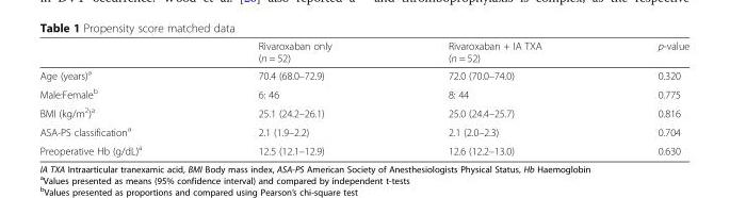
<table><thead><tr><td></td><td>Rivaroxaban only (n = 52)</td><td>Rivaroxaban + IA TXA (n = 52)</td><td>p-value</td></tr></thead><tbody><tr><td>Age (years)<sup>a</sup></td><td>70.4 (68.0–72.9)</td><td>72.0 (70.0–74.0)</td><td>0.320</td></tr><tr><td>Male:Female<sup>b</sup></td><td>6: 46</td><td>8: 44</td><td>0.775</td></tr><tr><td>BMI (kg/m<sup>2</sup>)<sup>a</sup></td><td>25.1 (24.2–26.1)</td><td>25.0 (24.4–25.7)</td><td>0.816</td></tr><tr><td>ASA-PS classification<sup>a</sup></td><td>2.1 (1.9–2.2)</td><td>2.1 (2.0–2.3)</td><td>0.704</td></tr><tr><td>Preoperative Hb (g/dL)<sup>a</sup></td><td>12.5 (12.1–12.9)</td><td>12.6 (12.2–13.0)</td><td>0.630</td></tr></tbody></table>